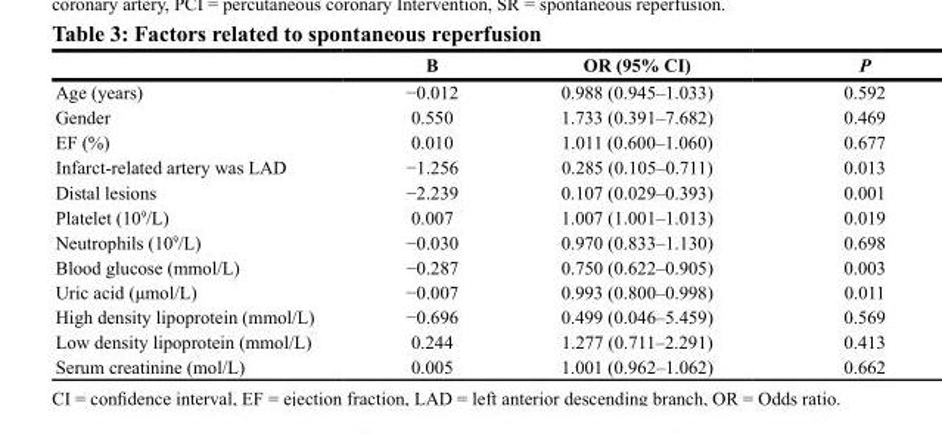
<table><thead><tr><td></td><td>B</td><td>OR (95% CI)</td><td>P</td></tr></thead><tbody><tr><td>Age (years)</td><td>−0.012</td><td>0.988 (0.945–1.033)</td><td>0.592</td></tr><tr><td>Gender</td><td>0.550</td><td>1.733 (0.391–7.682)</td><td>0.469</td></tr><tr><td>EF (%)</td><td>0.010</td><td>1.011 (0.600–1.060)</td><td>0.677</td></tr><tr><td>Infarct-related artery was LAD</td><td>−1.256</td><td>0.285 (0.105–0.711)</td><td>0.013</td></tr><tr><td>Distal lesions</td><td>−2.239</td><td>0.107 (0.029–0.393)</td><td>0.001</td></tr><tr><td>Platelet (10<sup>9</sup>/L)</td><td>0.007</td><td>1.007 (1.001–1.013)</td><td>0.019</td></tr><tr><td>Neutrophils (10<sup>9</sup>/L)</td><td>−0.030</td><td>0.970 (0.833–1.130)</td><td>0.698</td></tr><tr><td>Blood glucose (mmol/L)</td><td>−0.287</td><td>0.750 (0.622–0.905)</td><td>0.003</td></tr><tr><td>Uric acid (μmol/L)</td><td>−0.007</td><td>0.993 (0.800–0.998)</td><td>0.011</td></tr><tr><td>High density lipoprotein (mmol/L)</td><td>−0.696</td><td>0.499 (0.046–5.459)</td><td>0.569</td></tr><tr><td>Low density lipoprotein (mmol/L)</td><td>0.244</td><td>1.277 (0.711–2.291)</td><td>0.413</td></tr><tr><td>Serum creatinine (mol/L)</td><td>0.005</td><td>1.001 (0.962–1.062)</td><td>0.662</td></tr></tbody></table>